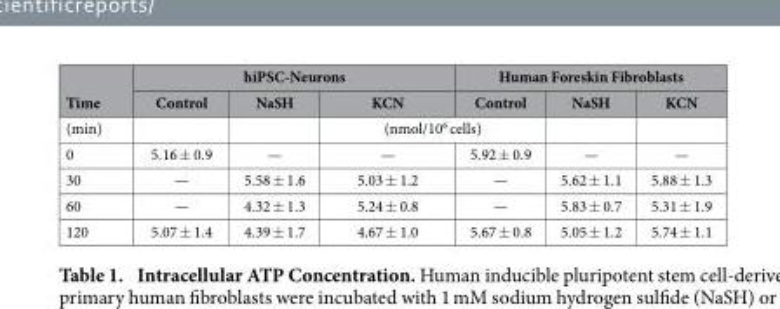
<table><thead><tr><td rowspan="2">Time</td><td colspan="3">hiPSC-Neurons</td><td colspan="3">Human Foreskin Fibroblasts</td></tr><tr><td>Control</td><td>NaSH</td><td>KCN</td><td>Control</td><td>NaSH</td><td>KCN</td></tr></thead><tbody><tr><td>(min)</td><td></td><td></td><td colspan="2">(nmol/10<sup>6</sup> cells)</td><td></td><td></td></tr><tr><td>0</td><td>5.16 ± 0.9</td><td>—</td><td>—</td><td>5.92 ± 0.9</td><td>—</td><td>—</td></tr><tr><td>30</td><td>—</td><td>5.58 ± 1.6</td><td>5.03 ± 1.2</td><td>—</td><td>5.62 ± 1.1</td><td>5.88 ± 1.3</td></tr><tr><td>60</td><td>—</td><td>4.32 ± 1.3</td><td>5.24 ± 0.8</td><td>—</td><td>5.83 ± 0.7</td><td>5.31 ± 1.9</td></tr><tr><td>120</td><td>5.07 ± 1.4</td><td>4.39 ± 1.7</td><td>4.67 ± 1.0</td><td>5.67 ± 0.8</td><td>5.05 ± 1.2</td><td>5.74 ± 1.1</td></tr></tbody></table>